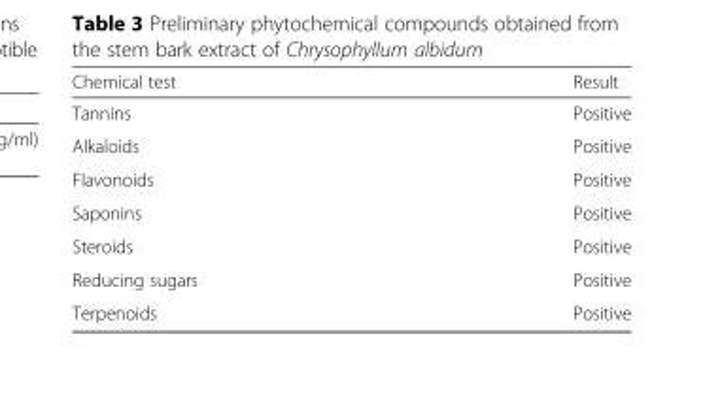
<table><thead><tr><td>Chemical test</td><td>Result</td></tr></thead><tbody><tr><td>Tannins</td><td>Positive</td></tr><tr><td>Alkaloids</td><td>Positive</td></tr><tr><td>Flavonoids</td><td>Positive</td></tr><tr><td>Saponins</td><td>Positive</td></tr><tr><td>Steroids</td><td>Positive</td></tr><tr><td>Reducing sugars</td><td>Positive</td></tr><tr><td>Terpenoids</td><td>Positive</td></tr></tbody></table>